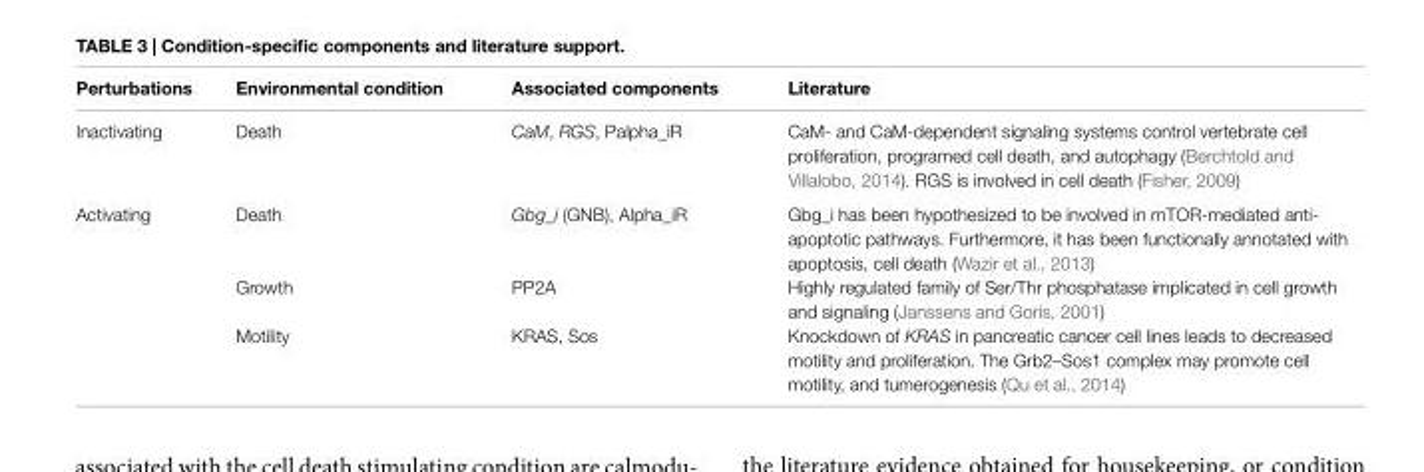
<table><thead><tr><td>Perturbations</td><td>environmental condition</td><td>associated components</td><td>literature</td></tr></thead><tbody><tr><td>Inactivating</td><td>Death</td><td>CaM, RGS, Palpha_iR</td><td>CaM- and CaM-dependent signaling systems control vertebrate cell proliferation, programed cell death, and autophagy (Berchtold and Villalobo, 2014). RGS is involved in cell death (Fisher, 2009)</td></tr><tr><td rowspan="3">Activating</td><td>Death</td><td>Gbg_i (GNB), Alpha_iR</td><td>Gbg_i has been hypothesized to be involved in mTOR-mediated anti- apoptotic pathways. Furthermore, it has been functionally annotated with apoptosis, cell death (Wazir et al., 2013)</td></tr><tr><td>Growth</td><td>PP2A</td><td>Highly regulated family of Ser/Thr phosphatase implicated in cell growth and signaling (Janssens and Goris, 2001)</td></tr><tr><td>Motility</td><td>KRAS, Sos</td><td>Knockdown of KRAS in pancreatic cancer cell lines leads to decreased motility and proliferation. The Grb2–Sos1 complex may promote cell motility, and tumerogenesis (Qu et al., 2014)</td></tr></tbody></table>